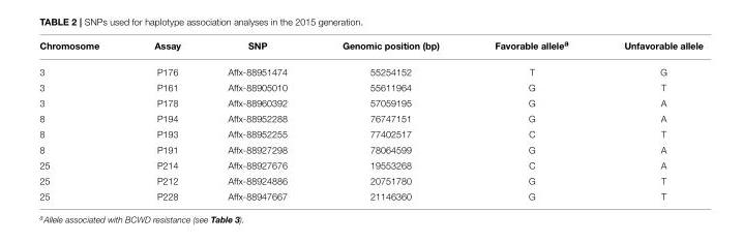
<table><thead><tr><td>Chromosome</td><td>Assay</td><td>SNP</td><td>Genomic position (bp)</td><td>Favorable allele<sup>a</sup></td><td>Unfavorable allele</td></tr></thead><tbody><tr><td>3</td><td>P176</td><td>Affx-88951474</td><td>55254152</td><td>T</td><td>G</td></tr><tr><td>3</td><td>P161</td><td>Affx-88905010</td><td>55611964</td><td>G</td><td>T</td></tr><tr><td>3</td><td>P178</td><td>Affx-88960392</td><td>57059195</td><td>G</td><td>A</td></tr><tr><td>8</td><td>P194</td><td>Affx-88952288</td><td>76747151</td><td>G</td><td>A</td></tr><tr><td>8</td><td>P193</td><td>Affx-88952255</td><td>77402517</td><td>C</td><td>T</td></tr><tr><td>8</td><td>P191</td><td>Affx-88927298</td><td>78064599</td><td>G</td><td>A</td></tr><tr><td>25</td><td>P214</td><td>Affx-88927676</td><td>19553268</td><td>C</td><td>A</td></tr><tr><td>25</td><td>P212</td><td>Affx-88924886</td><td>20751780</td><td>G</td><td>T</td></tr><tr><td>25</td><td>P228</td><td>Affx-88947667</td><td>21146360</td><td>G</td><td>T</td></tr></tbody></table>